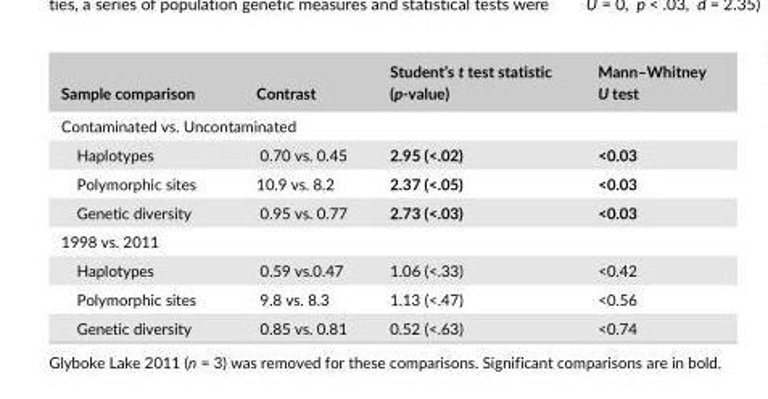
<table><thead><tr><td>Sample comparison</td><td>Contrast</td><td>Student’s t test statistic (p- value)</td><td>Mann–Whitney U test</td></tr></thead><tbody><tr><td colspan="4">Contaminated vs. Uncontaminated</td></tr><tr><td>Haplotypes</td><td>0.70 vs. 0.45</td><td>2.95 (&lt;.02)</td><td>&lt;0.03</td></tr><tr><td>Polymorphic sites</td><td>10.9 vs. 8.2</td><td>2.37 (&lt;.05)</td><td>&lt;0.03</td></tr><tr><td>Genetic diversity</td><td>0.95 vs. 0.77</td><td>2.73 (&lt;.03)</td><td>&lt;0.03</td></tr><tr><td colspan="4">1998 vs. 2011</td></tr><tr><td>Haplotypes</td><td>0.59 vs.0.47</td><td>1.06 (&lt;.33)</td><td>&lt;0.42</td></tr><tr><td>Polymorphic sites</td><td>9.8 vs. 8.3</td><td>1.13 (&lt;.47)</td><td>&lt;0.56</td></tr><tr><td>Genetic diversity</td><td>0.85 vs. 0.81</td><td>0.52 (&lt;.63)</td><td>&lt;0.74</td></tr></tbody></table>